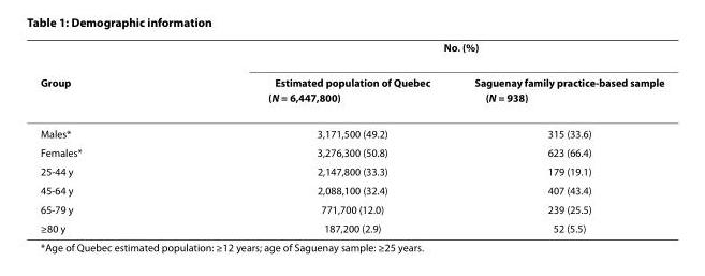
<table><thead><tr><td rowspan="2">Group</td><td colspan="2">No. (%)</td></tr><tr><td>Estimated population of Quebec (N = 6,447,800)</td><td>Saguenay family practice-based sample (N = 938)</td></tr></thead><tbody><tr><td>Males*</td><td>3,171,500 (49.2)</td><td>315 (33.6)</td></tr><tr><td>Females*</td><td>3,276,300 (50.8)</td><td>623 (66.4)</td></tr><tr><td>25-44 y</td><td>2,147,800 (33.3)</td><td>179 (19.1)</td></tr><tr><td>45-64 y</td><td>2,088,100 (32.4)</td><td>407 (43.4)</td></tr><tr><td>65-79 y</td><td>771,700 (12.0)</td><td>239 (25.5)</td></tr><tr><td>≥80 y</td><td>187,200 (2.9)</td><td>52 (5.5)</td></tr></tbody></table>